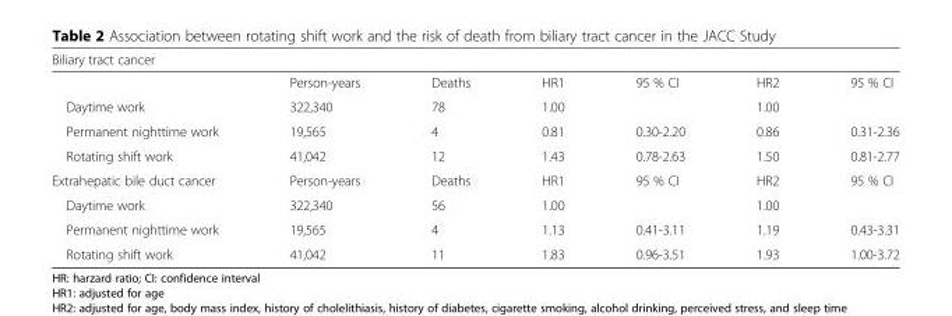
<table><thead><tr><td>Biliary tract cancer</td><td></td><td></td><td></td><td></td><td></td><td></td></tr></thead><tbody><tr><td></td><td>Person-years</td><td>Deaths</td><td>HR1</td><td>95 % CI</td><td>HR2</td><td>95 % CI</td></tr><tr><td>Daytime work</td><td>322,340</td><td>78</td><td>1.00</td><td></td><td>1.00</td><td></td></tr><tr><td>Permanent nighttime work</td><td>19,565</td><td>4</td><td>0.81</td><td>0.30-2.20</td><td>0.86</td><td>0.31-2.36</td></tr><tr><td>Rotating shift work</td><td>41,042</td><td>12</td><td>1.43</td><td>0.78-2.63</td><td>1.50</td><td>0.81-2.77</td></tr><tr><td>Extrahepatic bile duct cancer</td><td>Person-years</td><td>Deaths</td><td>HR1</td><td>95 % CI</td><td>HR2</td><td>95 % CI</td></tr><tr><td>Daytime work</td><td>322,340</td><td>56</td><td>1.00</td><td></td><td>1.00</td><td></td></tr><tr><td>Permanent nighttime work</td><td>19,565</td><td>4</td><td>1.13</td><td>0.41-3.11</td><td>1.19</td><td>0.43-3.31</td></tr><tr><td>Rotating shift work</td><td>41,042</td><td>11</td><td>1.83</td><td>0.96-3.51</td><td>1.93</td><td>1.00-3.72</td></tr></tbody></table>